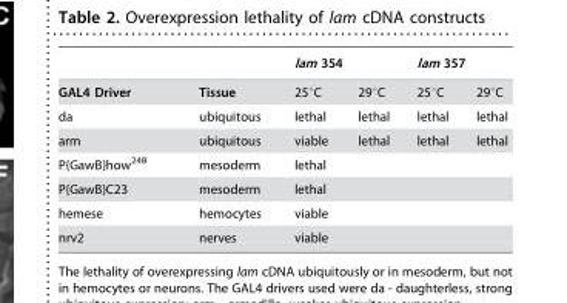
<table><thead><tr><td rowspan="2">GAL4 Driver</td><td rowspan="2">Tissue</td><td colspan="2">lam 354</td><td colspan="2">lam 357</td></tr><tr><td>25°C</td><td>29°C</td><td>25°C</td><td>29°C</td></tr></thead><tbody><tr><td>da</td><td>ubiquitous</td><td>lethal</td><td>lethal</td><td>lethal</td><td>lethal</td></tr><tr><td>arm</td><td>ubiquitous</td><td>viable</td><td>lethal</td><td>lethal</td><td>lethal</td></tr><tr><td>P{GawB}how<sup>24B</sup></td><td>mesoderm</td><td colspan="4">lethal</td></tr><tr><td>P{GawB}C23</td><td>mesoderm</td><td colspan="4">lethal</td></tr><tr><td>hemese</td><td>hemocytes</td><td colspan="4">viable</td></tr><tr><td>nrv2</td><td>nerves</td><td colspan="4">viable</td></tr></tbody></table>